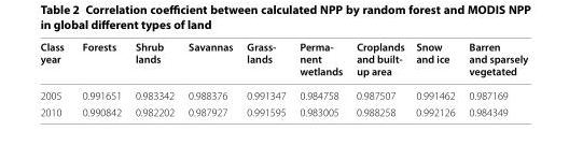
<table><thead><tr><td>Class year</td><td>Forests</td><td>Shrub lands</td><td>Savannas</td><td>Grass- lands</td><td>Perma- nent wetlands</td><td>Croplands and built- up area</td><td>Snow and ice</td><td>Barren and sparsely vegetated</td></tr></thead><tbody><tr><td>2005</td><td>0.991651</td><td>0.983342</td><td>0.988376</td><td>0.991347</td><td>0.984758</td><td>0.987507</td><td>0.991462</td><td>0.987169</td></tr><tr><td>2010</td><td>0.990842</td><td>0.982202</td><td>0.987927</td><td>0.991595</td><td>0.983005</td><td>0.988258</td><td>0.992126</td><td>0.984349</td></tr></tbody></table>